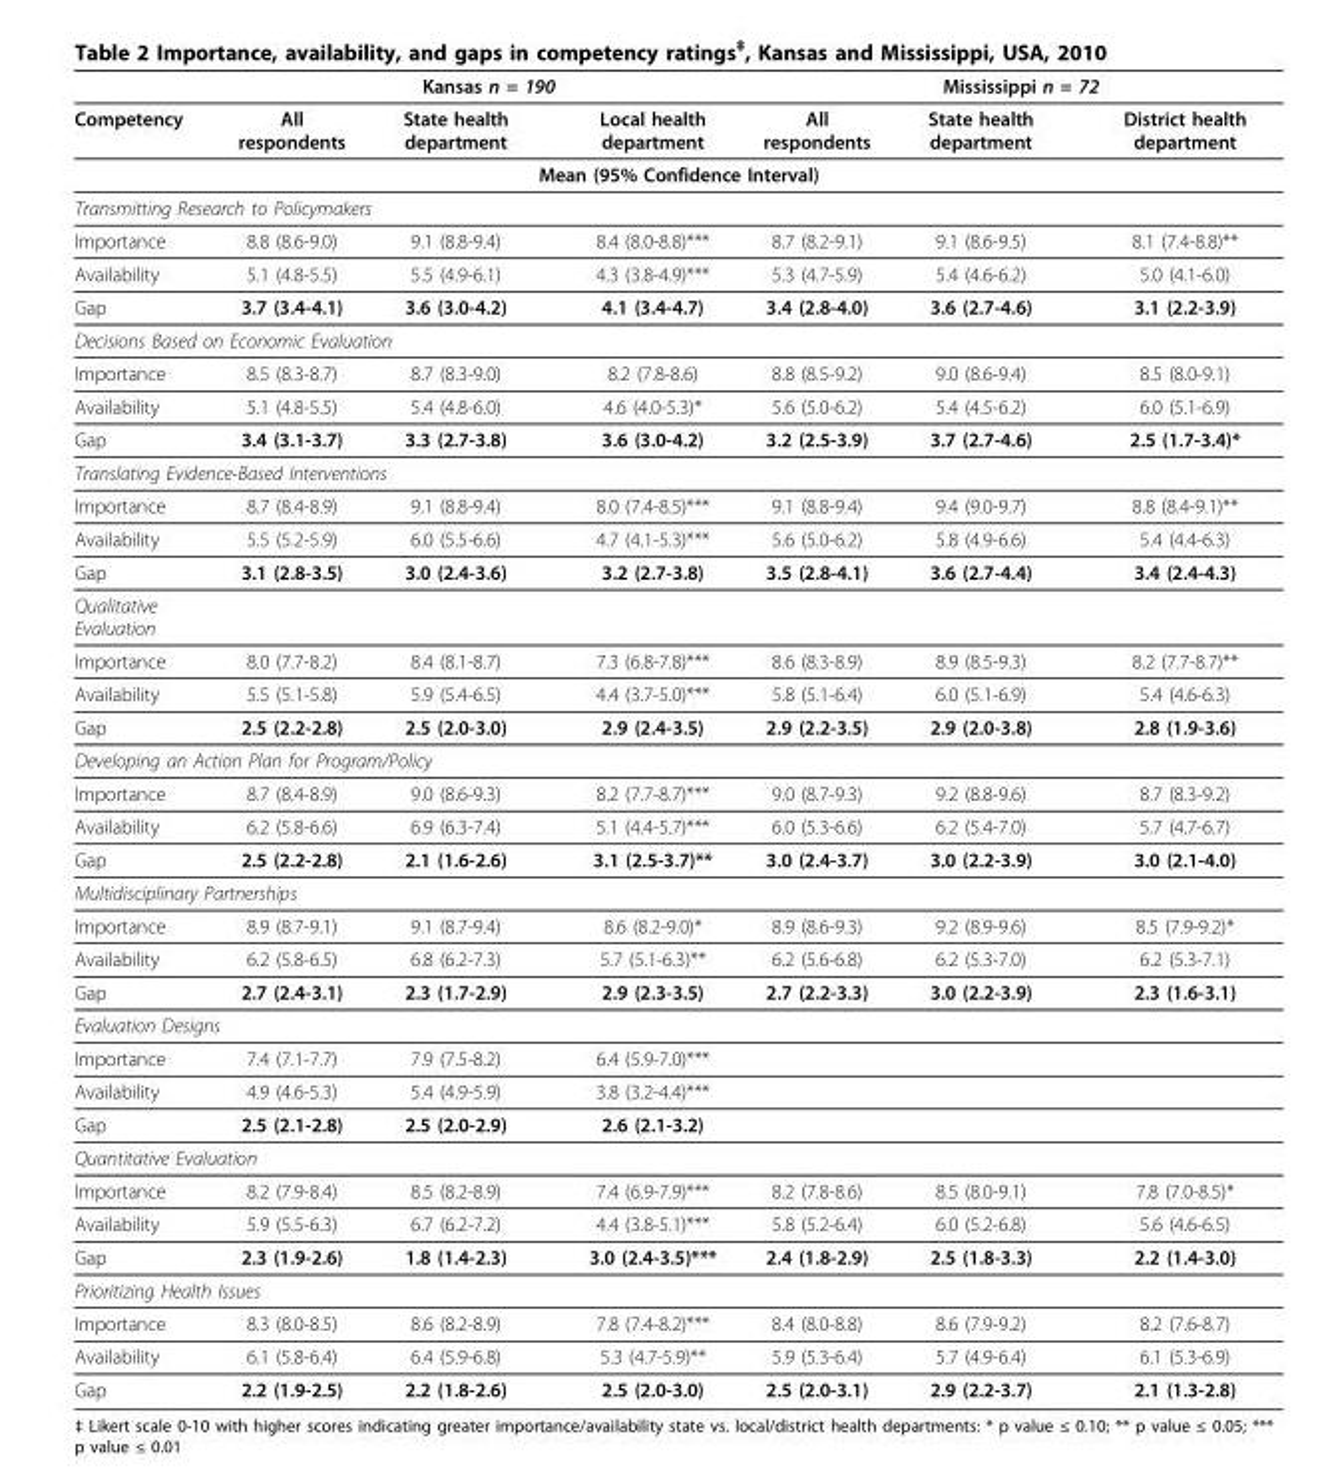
<table><thead><tr><td rowspan="2">Competency</td><td colspan="3">Kansas n = 190</td><td colspan="3">Mississippi n = 72</td></tr><tr><td>All respondents</td><td>State health department</td><td>Local health department</td><td>All respondents</td><td>State health department</td><td>District health department</td></tr></thead><tbody><tr><td colspan="7">Mean (95% Confidence Interval)</td></tr><tr><td colspan="7">Transmitting Research to Policymakers</td></tr><tr><td>Importance</td><td>8.8 (8.6-9.0)</td><td>9.1 (8.8-9.4)</td><td>8.4 (8.0-8.8)***</td><td>8.7 (8.2-9.1)</td><td>9.1 (8.6-9.5)</td><td>8.1 (7.4-8.8)**</td></tr><tr><td>Availability</td><td>5.1 (4.8-5.5)</td><td>5.5 (4.9-6.1)</td><td>4.3 (3.8-4.9)***</td><td>5.3 (4.7-5.9)</td><td>5.4 (4.6-6.2)</td><td>5.0 (4.1-6.0)</td></tr><tr><td>Gap</td><td>3.7 (3.4-4.1)</td><td>3.6 (3.0-4.2)</td><td>4.1 (3.4-4.7)</td><td>3.4 (2.8-4.0)</td><td>3.6 (2.7-4.6)</td><td>3.1 (2.2-3.9)</td></tr><tr><td colspan="7">Decisions Based on Economic Evaluation</td></tr><tr><td>Importance</td><td>8.5 (8.3-8.7)</td><td>8.7 (8.3-9.0)</td><td>8.2 (7.8-8.6)</td><td>8.8 (8.5-9.2)</td><td>9.0 (8.6-9.4)</td><td>8.5 (8.0-9.1)</td></tr><tr><td>Availability</td><td>5.1 (4.8-5.5)</td><td>5.4 (4.8-6.0)</td><td>4.6 (4.0-5.3)*</td><td>5.6 (5.0-6.2)</td><td>5.4 (4.5-6.2)</td><td>6.0 (5.1-6.9)</td></tr><tr><td>Gap</td><td>3.4 (3.1-3.7)</td><td>3.3 (2.7-3.8)</td><td>3.6 (3.0-4.2)</td><td>3.2 (2.5-3.9)</td><td>3.7 (2.7-4.6)</td><td>2.5 (1.7-3.4)*</td></tr><tr><td colspan="7">Translating Evidence-Based Interventions</td></tr><tr><td>Importance</td><td>8.7 (8.4-8.9)</td><td>9.1 (8.8-9.4)</td><td>8.0 (7.4-8.5)***</td><td>9.1 (8.8-9.4)</td><td>9.4 (9.0-9.7)</td><td>8.8 (8.4-9.1)**</td></tr><tr><td>Availability</td><td>5.5 (5.2-5.9)</td><td>6.0 (5.5-6.6)</td><td>4.7 (4.1-5.3)***</td><td>5.6 (5.0-6.2)</td><td>5.8 (4.9-6.6)</td><td>5.4 (4.4-6.3)</td></tr><tr><td>Gap</td><td>3.1 (2.8-3.5)</td><td>3.0 (2.4-3.6)</td><td>3.2 (2.7-3.8)</td><td>3.5 (2.8-4.1)</td><td>3.6 (2.7-4.4)</td><td>3.4 (2.4-4.3)</td></tr><tr><td colspan="7">Qualitative Evaluation</td></tr><tr><td>Importance</td><td>8.0 (7.7-8.2)</td><td>8.4 (8.1-8.7)</td><td>7.3 (6.8-7.8)***</td><td>8.6 (8.3-8.9)</td><td>8.9 (8.5-9.3)</td><td>8.2 (7.7-8.7)**</td></tr><tr><td>Availability</td><td>5.5 (5.1-5.8)</td><td>5.9 (5.4-6.5)</td><td>4.4 (3.7-5.0)***</td><td>5.8 (5.1-6.4)</td><td>6.0 (5.1-6.9)</td><td>5.4 (4.6-6.3)</td></tr><tr><td>Gap</td><td>2.5 (2.2-2.8)</td><td>2.5 (2.0-3.0)</td><td>2.9 (2.4-3.5)</td><td>2.9 (2.2-3.5)</td><td>2.9 (2.0-3.8)</td><td>2.8 (1.9-3.6)</td></tr><tr><td colspan="7">Developing an Action Plan for Program/Policy</td></tr><tr><td>Importance</td><td>8.7 (8.4-8.9)</td><td>9.0 (8.6-9.3)</td><td>8.2 (7.7-8.7)***</td><td>9.0 (8.7-9.3)</td><td>9.2 (8.8-9.6)</td><td>8.7 (8.3-9.2)</td></tr><tr><td>Availability</td><td>6.2 (5.8-6.6)</td><td>6.9 (6.3-7.4)</td><td>5.1 (4.4-5.7)***</td><td>6.0 (5.3-6.6)</td><td>6.2 (5.4-7.0)</td><td>5.7 (4.7-6.7)</td></tr><tr><td>Gap</td><td>2.5 (2.2-2.8)</td><td>2.1 (1.6-2.6)</td><td>3.1 (2.5-3.7)**</td><td>3.0 (2.4-3.7)</td><td>3.0 (2.2-3.9)</td><td>3.0 (2.1-4.0)</td></tr><tr><td colspan="7">Multidisciplinary Partnerships</td></tr><tr><td>Importance</td><td>8.9 (8.7-9.1)</td><td>9.1 (8.7-9.4)</td><td>8.6 (8.2-9.0)*</td><td>8.9 (8.6-9.3)</td><td>9.2 (8.9-9.6)</td><td>8.5 (7.9-9.2)*</td></tr><tr><td>Availability</td><td>6.2 (5.8-6.5)</td><td>6.8 (6.2-7.3)</td><td>5.7 (5.1-6.3)**</td><td>6.2 (5.6-6.8)</td><td>6.2 (5.3-7.0)</td><td>6.2 (5.3-7.1)</td></tr><tr><td>Gap</td><td>2.7 (2.4-3.1)</td><td>2.3 (1.7-2.9)</td><td>2.9 (2.3-3.5)</td><td>2.7 (2.2-3.3)</td><td>3.0 (2.2-3.9)</td><td>2.3 (1.6-3.1)</td></tr><tr><td colspan="7">Evaluation Designs</td></tr><tr><td>Importance</td><td>7.4 (7.1-7.7)</td><td>7.9 (7.5-8.2)</td><td>6.4 (5.9-7.0)***</td><td></td><td></td><td></td></tr><tr><td>Availability</td><td>4.9 (4.6-5.3)</td><td>5.4 (4.9-5.9)</td><td>3.8 (3.2-4.4)***</td><td></td><td></td><td></td></tr><tr><td>Gap</td><td>2.5 (2.1-2.8)</td><td>2.5 (2.0-2.9)</td><td>2.6 (2.1-3.2)</td><td></td><td></td><td></td></tr><tr><td colspan="7">Quantitative Evaluation</td></tr><tr><td>Importance</td><td>8.2 (7.9-8.4)</td><td>8.5 (8.2-8.9)</td><td>7.4 (6.9-7.9)***</td><td>8.2 (7.8-8.6)</td><td>8.5 (8.0-9.1)</td><td>7.8 (7.0-8.5)*</td></tr><tr><td>Availability</td><td>5.9 (5.5-6.3)</td><td>6.7 (6.2-7.2)</td><td>4.4 (3.8-5.1)***</td><td>5.8 (5.2-6.4)</td><td>6.0 (5.2-6.8)</td><td>5.6 (4.6-6.5)</td></tr><tr><td>Gap</td><td>2.3 (1.9-2.6)</td><td>1.8 (1.4-2.3)</td><td>3.0 (2.4-3.5)***</td><td>2.4 (1.8-2.9)</td><td>2.5 (1.8-3.3)</td><td>2.2 (1.4-3.0)</td></tr><tr><td colspan="7">Prioritizing Health Issues</td></tr><tr><td>Importance</td><td>8.3 (8.0-8.5)</td><td>8.6 (8.2-8.9)</td><td>7.8 (7.4-8.2)***</td><td>8.4 (8.0-8.8)</td><td>8.6 (7.9-9.2)</td><td>8.2 (7.6-8.7)</td></tr><tr><td>Availability</td><td>6.1 (5.8-6.4)</td><td>6.4 (5.9-6.8)</td><td>5.3 (4.7-5.9)**</td><td>5.9 (5.3-6.4)</td><td>5.7 (4.9-6.4)</td><td>6.1 (5.3-6.9)</td></tr><tr><td>Gap</td><td>2.2 (1.9-2.5)</td><td>2.2 (1.8-2.6)</td><td>2.5 (2.0-3.0)</td><td>2.5 (2.0-3.1)</td><td>2.9 (2.2-3.7)</td><td>2.1 (1.3-2.8)</td></tr></tbody></table>